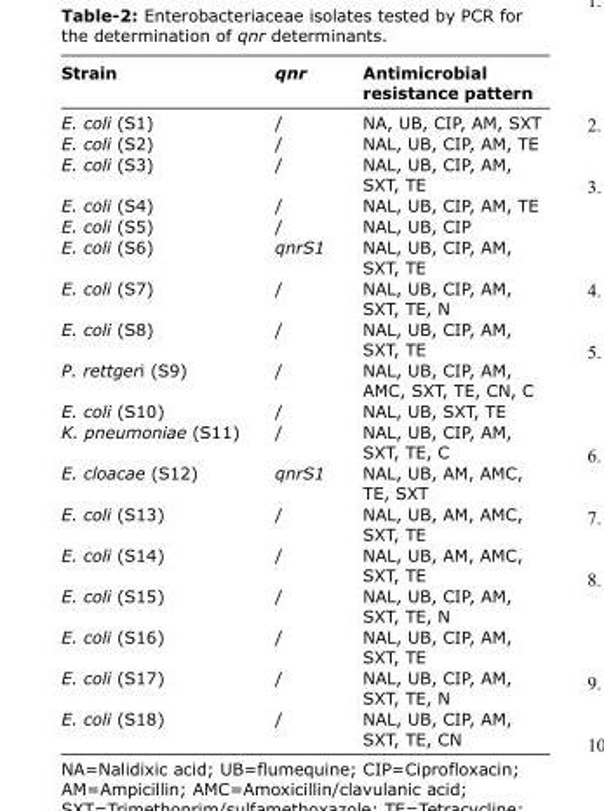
<table><thead><tr><td>Strain</td><td>qnr</td><td>Antimicrobial resistance pattern</td></tr></thead><tbody><tr><td>E. coli (S1)</td><td>/</td><td>NA, UB, CIP, AM, SXT</td></tr><tr><td>E. coli (S2)</td><td>/</td><td>NAL, UB, CIP, AM, TE</td></tr><tr><td>E. coli (S3)</td><td>/</td><td>NAL, UB, CIP, AM, SXT, TE</td></tr><tr><td>E. coli (S4)</td><td>/</td><td>NAL, UB, CIP, AM, TE</td></tr><tr><td>E. coli (S5)</td><td>/</td><td>NAL, UB, CIP</td></tr><tr><td>E. coli (S6)</td><td>qnrS1</td><td>NAL, UB, CIP, AM, SXT, TE</td></tr><tr><td>E. coli (S7)</td><td>/</td><td>NAL, UB, CIP, AM, SXT, TE, N</td></tr><tr><td>E. coli (S8)</td><td>/</td><td>NAL, UB, CIP, AM, SXT, TE</td></tr><tr><td>P. rettgeri (S9)</td><td>/</td><td>NAL, UB, CIP, AM, AMC, SXT, TE, CN, C</td></tr><tr><td>E. coli (S10)</td><td>/</td><td>NAL, UB, SXT, TE</td></tr><tr><td>K. pneumoniae (S11)</td><td>/</td><td>NAL, UB, CIP, AM, SXT, TE, C</td></tr><tr><td>E. cloacae (S12)</td><td>qnrS1</td><td>NAL, UB, AM, AMC, TE, SXT</td></tr><tr><td>E. coli (S13)</td><td>/</td><td>NAL, UB, AM, AMC, SXT, TE</td></tr><tr><td>E. coli (S14)</td><td>/</td><td>NAL, UB, AM, AMC, SXT, TE</td></tr><tr><td>E. coli (S15)</td><td>/</td><td>NAL, UB, CIP, AM, SXT, TE, N</td></tr><tr><td>E. coli (S16)</td><td>/</td><td>NAL, UB, CIP, AM, SXT, TE</td></tr><tr><td>E. coli (S17)</td><td>/</td><td>NAL, UB, CIP, AM, SXT, TE, N</td></tr><tr><td>E. coli (S18)</td><td>/</td><td>NAL, UB, CIP, AM, SXT, TE, CN</td></tr></tbody></table>